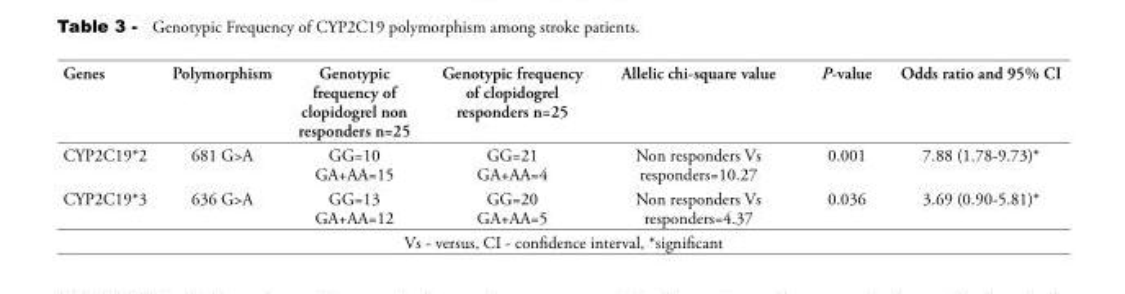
<table><thead><tr><td>Genes</td><td>Polymorphism</td><td>Genotypic frequency of clopidogrel non responders n=25</td><td>Genotypic frequency of clopidogrel responders n=25</td><td>Allelic chi-square value</td><td>P-value</td><td>Odds ratio and 95% CI</td></tr></thead><tbody><tr><td>CYP2C19*2</td><td>681 G&gt;A</td><td>GG=10 GA+AA=15</td><td>GG=21 GA+AA=4</td><td>Non responders Vs responders=10.27</td><td>0.001</td><td>7.88 )1.78-9.73(*</td></tr><tr><td>CYP2C19*3</td><td>636 G&gt;A</td><td>GG=13 GA+AA=12</td><td>GG=20 GA+AA=5</td><td>Non responders Vs responders=4.37</td><td>0.036</td><td>3.69 )0.90-5.81(*</td></tr></tbody></table>